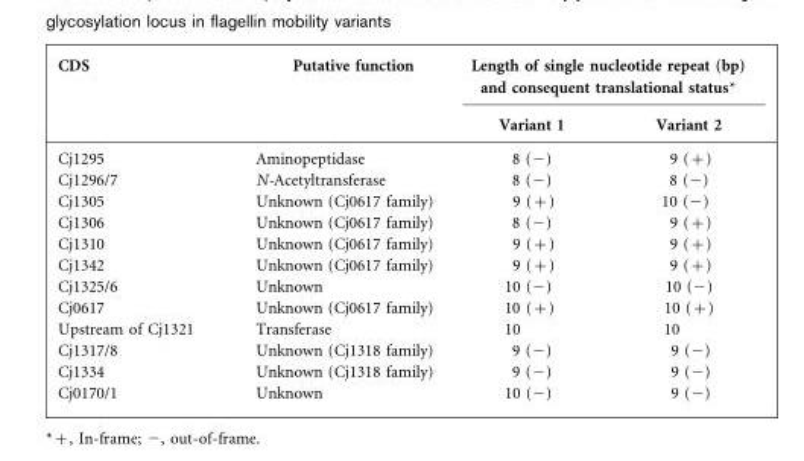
<table><thead><tr><td rowspan="2">CDS</td><td rowspan="2">Putative function</td><td colspan="2">Length of single nucleotide repeat (bp) and consequent translational status*</td></tr><tr><td>Variant 1</td><td>Variant 2</td></tr></thead><tbody><tr><td>Cj1295</td><td>Aminopeptidase</td><td>8 (−)</td><td>9 (+)</td></tr><tr><td>Cj1296/7</td><td>N-Acetyltransferase</td><td>8 (−)</td><td>8 (−)</td></tr><tr><td>Cj1305</td><td>Unknown (Cj0617 family)</td><td>9 (+)</td><td>10 (−)</td></tr><tr><td>Cj1306</td><td>Unknown (Cj0617 family)</td><td>8 (−)</td><td>9 (+)</td></tr><tr><td>Cj1310</td><td>Unknown (Cj0617 family)</td><td>9 (+)</td><td>9 (+)</td></tr><tr><td>Cj1342</td><td>Unknown (Cj0617 family)</td><td>9 (+)</td><td>9 (+)</td></tr><tr><td>Cj1325/6</td><td>Unknown</td><td>10 (−)</td><td>10 (−)</td></tr><tr><td>Cj0617</td><td>Unknown (Cj0617 family)</td><td>10 (+)</td><td>10 (+)</td></tr><tr><td>Upstream of Cj1321</td><td>Transferase</td><td>10</td><td>10</td></tr><tr><td>Cj1317/8</td><td>Unknown (Cj1318 family)</td><td>9 (−)</td><td>9 (−)</td></tr><tr><td>Cj1334</td><td>Unknown (Cj1318 family)</td><td>9 (−)</td><td>9 (−)</td></tr><tr><td>Cj0170/1</td><td>Unknown</td><td>10 (−)</td><td>9 (−)</td></tr></tbody></table>